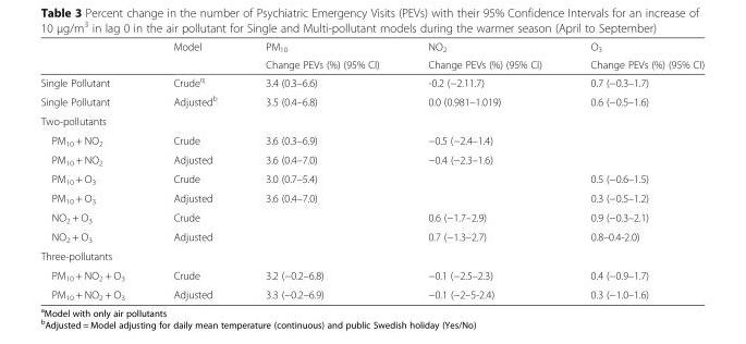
<table><thead><tr><td rowspan="2"></td><td rowspan="2">Model</td><td rowspan="2">PM<sub>10</sub> Change PEVs (%) (95% CI)</td><td rowspan="2">NO<sub>2</sub> Change PEVs (%) (95% CI)</td><td rowspan="2">O<sub>3</sub> Change PEVs (%) (95% CI)</td></tr><tr></tr></thead><tbody><tr><td>Single Pollutant</td><td>Crude<sup>q</sup></td><td>3.4 (0.3–6.6)</td><td>-0.2 (−2.11.7)</td><td>0.7 (−0.3–1.7)</td></tr><tr><td>Single Pollutant</td><td>Adjusted<sup>b</sup></td><td>3.5 (0.4–6.8)</td><td>0.0 (0.981–1.019)</td><td>0.6 (−0.5–1.6)</td></tr><tr><td colspan="5">Two-pollutants</td></tr><tr><td>PM<sub>10</sub> + NO<sub>2</sub></td><td>Crude</td><td>3.6 (0.3–6.9)</td><td>−0.5 (−2.4–1.4)</td><td></td></tr><tr><td>PM<sub>10</sub> + NO<sub>2</sub></td><td>Adjusted</td><td>3.6 (0.4–7.0)</td><td>−0.4 (−2.3–1.6)</td><td></td></tr><tr><td>PM<sub>10</sub> + O<sub>3</sub></td><td>Crude</td><td>3.0 (0.7–5.4)</td><td></td><td>0.5 (−0.6–1.5)</td></tr><tr><td>PM<sub>10</sub> + O<sub>3</sub></td><td>Adjusted</td><td>3.6 (0.4–7.0)</td><td></td><td>0.3 (−0.5–1.2)</td></tr><tr><td>NO<sub>2</sub> + O<sub>3</sub></td><td>Crude</td><td></td><td>0.6 (−1.7–2.9)</td><td>0.9 (−0.3–2.1)</td></tr><tr><td>NO<sub>2</sub> + O<sub>3</sub></td><td>Adjusted</td><td></td><td>0.7 (−1.3–2.7)</td><td>0.8–0.4-2.0)</td></tr><tr><td colspan="5">Three-pollutants</td></tr><tr><td>PM<sub>10</sub> + NO<sub>2</sub> + O<sub>3</sub></td><td>Crude</td><td>3.2 (−0.2–6.8)</td><td>−0.1 (−2.5–2.3)</td><td>0.4 (−0.9–1.7)</td></tr><tr><td>PM<sub>10</sub> + NO<sub>2</sub> + O<sub>3</sub></td><td>Adjusted</td><td>3.3 (−0.2–6.9)</td><td>−0.1 (−2–5-2.4)</td><td>0.3 (−1.0–1.6)</td></tr></tbody></table>